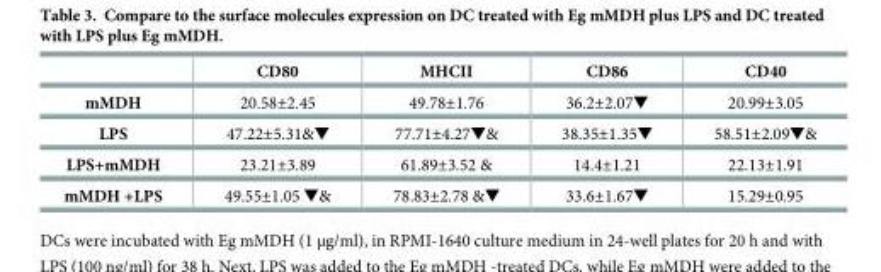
<table><thead><tr><td></td><td>CD80</td><td>MHCII</td><td>CD86</td><td>CD40</td></tr></thead><tbody><tr><td>mMDH</td><td>20.58±2.45</td><td>49.78±1.76</td><td>36.2±2.07▼</td><td>20.99±3.05</td></tr><tr><td>LPS</td><td>47.22±5.31&amp;▼</td><td>77.71±4.27▼&amp;</td><td>38.35±1.35▼</td><td>58.51±2.09▼&amp;</td></tr><tr><td>LPS+mMDH</td><td>23.21±3.89</td><td>61.89±3.52 &amp;</td><td>14.4±1.21</td><td>22.13±1.91</td></tr><tr><td>mMDH +LPS</td><td>49.55±1.05 ▼&amp;</td><td>78.83±2.78 &amp;▼</td><td>33.6±1.67▼</td><td>15.29±0.95</td></tr></tbody></table>